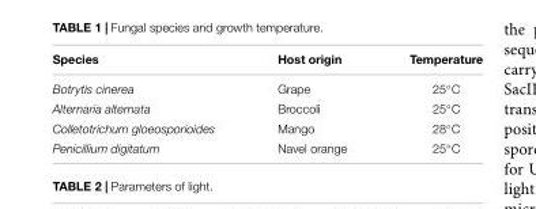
<table><thead><tr><td>Species</td><td>Host origin</td><td>Temperature</td></tr></thead><tbody><tr><td>Botrytis cinerea</td><td>Grape</td><td>25◦C</td></tr><tr><td>Alternaria alternata</td><td>Broccoli</td><td>25◦C</td></tr><tr><td>Colletotrichum gloeosporioides</td><td>Mango</td><td>28◦C</td></tr><tr><td>Penicillium digitatum</td><td>Navel orange</td><td>25◦C</td></tr></tbody></table>